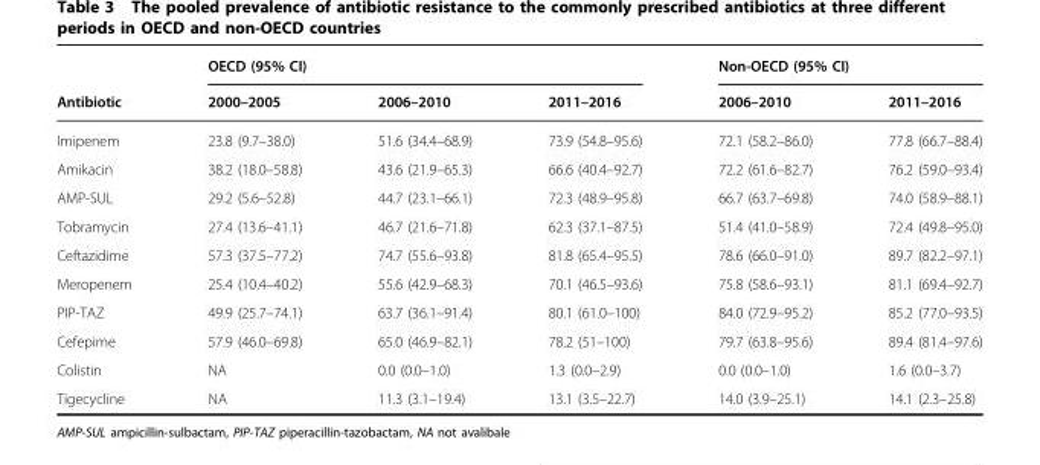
<table><thead><tr><td rowspan="2">Antibiotic</td><td colspan="3">OECD (95% CI)</td><td colspan="2">Non-OECD (95% CI)</td></tr><tr><td>2000–2005</td><td>2006–2010</td><td>2011–2016</td><td>2006–2010</td><td>2011–2016</td></tr></thead><tbody><tr><td>Imipenem</td><td>23.8 (9.7–38.0)</td><td>51.6 (34.4–68.9)</td><td>73.9 (54.8–95.6)</td><td>72.1 (58.2–86.0)</td><td>77.8 (66.7–88.4)</td></tr><tr><td>Amikacin</td><td>38.2 (18.0–58.8)</td><td>43.6 (21.9–65.3)</td><td>66.6 (40.4–92.7)</td><td>72.2 (61.6–82.7)</td><td>76.2 (59.0–93.4)</td></tr><tr><td>AMP-SUL</td><td>29.2 (5.6–52.8)</td><td>44.7 (23.1–66.1)</td><td>72.3 (48.9–95.8)</td><td>66.7 (63.7–69.8)</td><td>74.0 (58.9–88.1)</td></tr><tr><td>Tobramycin</td><td>27.4 (13.6–41.1)</td><td>46.7 (21.6–71.8)</td><td>62.3 (37.1–87.5)</td><td>51.4 (41.0–58.9)</td><td>72.4 (49.8–95.0)</td></tr><tr><td>Ceftazidime</td><td>57.3 (37.5–77.2)</td><td>74.7 (55.6–93.8)</td><td>81.8 (65.4–95.5)</td><td>78.6 (66.0–91.0)</td><td>89.7 (82.2–97.1)</td></tr><tr><td>Meropenem</td><td>25.4 (10.4–40.2)</td><td>55.6 (42.9–68.3)</td><td>70.1 (46.5–93.6)</td><td>75.8 (58.6–93.1)</td><td>81.1 (69.4–92.7)</td></tr><tr><td>PIP-TAZ</td><td>49.9 (25.7–74.1)</td><td>63.7 (36.1–91.4)</td><td>80.1 (61.0–100)</td><td>84.0 (72.9–95.2)</td><td>85.2 (77.0–93.5)</td></tr><tr><td>Cefepime</td><td>57.9 (46.0–69.8)</td><td>65.0 (46.9–82.1)</td><td>78.2 (51–100)</td><td>79.7 (63.8–95.6)</td><td>89.4 (81.4–97.6)</td></tr><tr><td>Colistin</td><td>NA</td><td>0.0 (0.0–1.0)</td><td>1.3 (0.0–2.9)</td><td>0.0 (0.0–1.0)</td><td>1.6 (0.0–3.7)</td></tr><tr><td>Tigecycline</td><td>NA</td><td>11.3 (3.1–19.4)</td><td>13.1 (3.5–22.7)</td><td>14.0 (3.9–25.1)</td><td>14.1 (2.3–25.8)</td></tr></tbody></table>